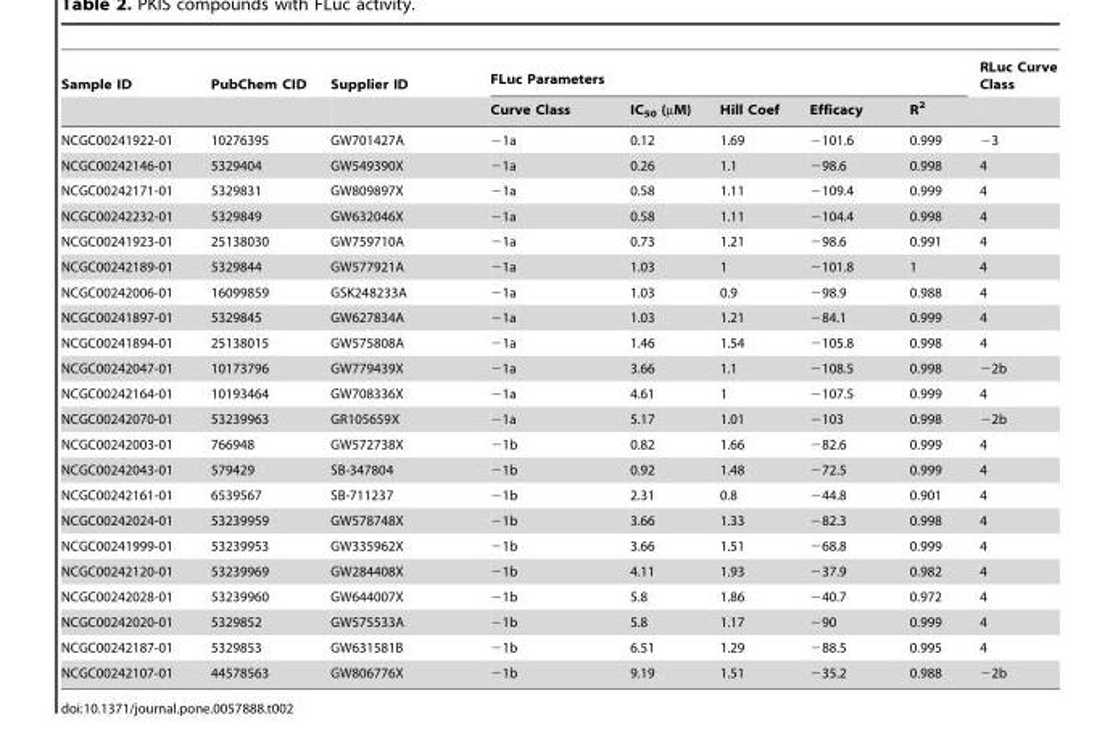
<table><thead><tr><td rowspan="2">Sample ID</td><td rowspan="2">PubChem CID</td><td rowspan="2">Supplier ID</td><td colspan="5">FLuc Parameters</td><td rowspan="2">RLuc Curve Class</td></tr><tr><td>Curve Class</td><td>IC<sub>50</sub> (µM)</td><td>Hill Coef</td><td>Efficacy</td><td>R<sup>2</sup></td></tr></thead><tbody><tr><td>NCGC00241922-01</td><td>10276395</td><td>GW701427A</td><td>−1a</td><td>0.12</td><td>1.69</td><td>−101.6</td><td>0.999</td><td>−3</td></tr><tr><td>NCGC00242146-01</td><td>5329404</td><td>GW549390X</td><td>−1a</td><td>0.26</td><td>1.1</td><td>−98.6</td><td>0.998</td><td>4</td></tr><tr><td>NCGC00242171-01</td><td>5329831</td><td>GW809897X</td><td>−1a</td><td>0.58</td><td>1.11</td><td>−109.4</td><td>0.999</td><td>4</td></tr><tr><td>NCGC00242232-01</td><td>5329849</td><td>GW632046X</td><td>−1a</td><td>0.58</td><td>1.11</td><td>−104.4</td><td>0.998</td><td>4</td></tr><tr><td>NCGC00241923-01</td><td>25138030</td><td>GW759710A</td><td>−1a</td><td>0.73</td><td>1.21</td><td>−98.6</td><td>0.991</td><td>4</td></tr><tr><td>NCGC00242189-01</td><td>5329844</td><td>GW577921A</td><td>−1a</td><td>1.03</td><td>1</td><td>−101.8</td><td>1</td><td>4</td></tr><tr><td>NCGC00242006-01</td><td>16099859</td><td>GSK248233A</td><td>−1a</td><td>1.03</td><td>0.9</td><td>−98.9</td><td>0.988</td><td>4</td></tr><tr><td>NCGC00241897-01</td><td>5329845</td><td>GW627834A</td><td>−1a</td><td>1.03</td><td>1.21</td><td>−84.1</td><td>0.999</td><td>4</td></tr><tr><td>NCGC00241894-01</td><td>25138015</td><td>GW575808A</td><td>−1a</td><td>1.46</td><td>1.54</td><td>−105.8</td><td>0.998</td><td>4</td></tr><tr><td>NCGC00242047-01</td><td>10173796</td><td>GW779439X</td><td>−1a</td><td>3.66</td><td>1.1</td><td>−108.5</td><td>0.998</td><td>−2b</td></tr><tr><td>NCGC00242164-01</td><td>10193464</td><td>GW708336X</td><td>−1a</td><td>4.61</td><td>1</td><td>−107.5</td><td>0.999</td><td>4</td></tr><tr><td>NCGC00242070-01</td><td>53239963</td><td>GR105659X</td><td>−1a</td><td>5.17</td><td>1.01</td><td>−103</td><td>0.998</td><td>−2b</td></tr><tr><td>NCGC00242003-01</td><td>766948</td><td>GW572738X</td><td>−1b</td><td>0.82</td><td>1.66</td><td>−82.6</td><td>0.999</td><td>4</td></tr><tr><td>NCGC00242043-01</td><td>579429</td><td>SB-347804</td><td>−1b</td><td>0.92</td><td>1.48</td><td>−72.5</td><td>0.999</td><td>4</td></tr><tr><td>NCGC00242161-01</td><td>6539567</td><td>SB-711237</td><td>−1b</td><td>2.31</td><td>0.8</td><td>−44.8</td><td>0.901</td><td>4</td></tr><tr><td>NCGC00242024-01</td><td>53239959</td><td>GW578748X</td><td>−1b</td><td>3.66</td><td>1.33</td><td>−82.3</td><td>0.998</td><td>4</td></tr><tr><td>NCGC00241999-01</td><td>53239953</td><td>GW335962X</td><td>−1b</td><td>3.66</td><td>1.51</td><td>−68.8</td><td>0.999</td><td>4</td></tr><tr><td>NCGC00242120-01</td><td>53239969</td><td>GW284408X</td><td>−1b</td><td>4.11</td><td>1.93</td><td>−37.9</td><td>0.982</td><td>4</td></tr><tr><td>NCGC00242028-01</td><td>53239960</td><td>GW644007X</td><td>−1b</td><td>5.8</td><td>1.86</td><td>−40.7</td><td>0.972</td><td>4</td></tr><tr><td>NCGC00242020-01</td><td>5329852</td><td>GW575533A</td><td>−1b</td><td>5.8</td><td>1.17</td><td>−90</td><td>0.999</td><td>4</td></tr><tr><td>NCGC00242187-01</td><td>5329853</td><td>GW631581B</td><td>−1b</td><td>6.51</td><td>1.29</td><td>−88.5</td><td>0.995</td><td>4</td></tr><tr><td>NCGC00242107-01</td><td>44578563</td><td>GW806776X</td><td>−1b</td><td>9.19</td><td>1.51</td><td>−35.2</td><td>0.988</td><td>−2b</td></tr></tbody></table>